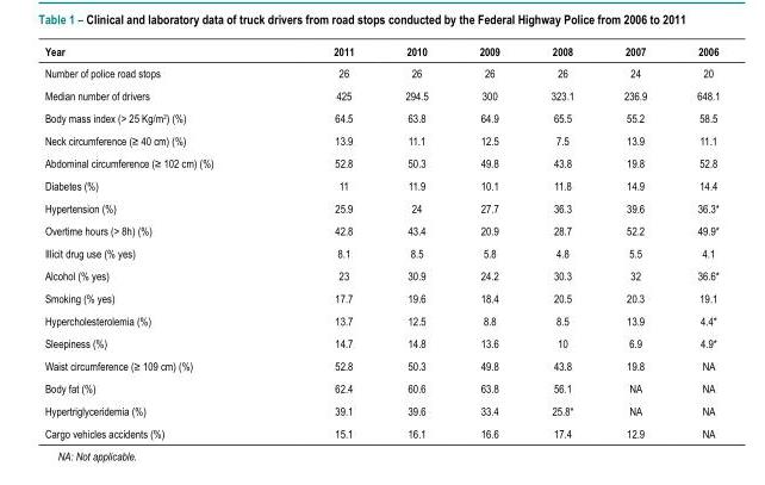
<table><thead><tr><td>Year</td><td>2011</td><td>2010</td><td>2009</td><td>2008</td><td>2007</td><td>2006</td></tr></thead><tbody><tr><td>Number of police road stops</td><td>26</td><td>26</td><td>26</td><td>26</td><td>24</td><td>20</td></tr><tr><td>Median number of drivers</td><td>425</td><td>294.5</td><td>300</td><td>323.1</td><td>236.9</td><td>648.1</td></tr><tr><td>Body mass index (&gt; 25 Kg/m<sup>2</sup>) (%)</td><td>64.5</td><td>63.8</td><td>64.9</td><td>65.5</td><td>55.2</td><td>58.5</td></tr><tr><td>Neck circumference (≥ 40 cm) (%)</td><td>13.9</td><td>11.1</td><td>12.5</td><td>7.5</td><td>13.9</td><td>11.1</td></tr><tr><td>Abdominal circumference (≥ 102 cm) (%)</td><td>52.8</td><td>50.3</td><td>49.8</td><td>43.8</td><td>19.8</td><td>52.8</td></tr><tr><td>Diabetes (%)</td><td>11</td><td>11.9</td><td>10.1</td><td>11.8</td><td>14.9</td><td>14.4</td></tr><tr><td>Hypertension (%)</td><td>25.9</td><td>24</td><td>27.7</td><td>36.3</td><td>39.6</td><td>36.3*</td></tr><tr><td>Overtime hours (&gt; 8h) (%)</td><td>42.8</td><td>43.4</td><td>20.9</td><td>28.7</td><td>52.2</td><td>49.9*</td></tr><tr><td>Illicit drug use (% yes)</td><td>8.1</td><td>8.5</td><td>5.8</td><td>4.8</td><td>5.5</td><td>4.1</td></tr><tr><td>Alcohol (% yes)</td><td>23</td><td>30.9</td><td>24.2</td><td>30.3</td><td>32</td><td>36.6*</td></tr><tr><td>Smoking (% yes)</td><td>17.7</td><td>19.6</td><td>18.4</td><td>20.5</td><td>20.3</td><td>19.1</td></tr><tr><td>Hypercholesterolemia (%)</td><td>13.7</td><td>12.5</td><td>8.8</td><td>8.5</td><td>13.9</td><td>4.4*</td></tr><tr><td>Sleepiness (%)</td><td>14.7</td><td>14.8</td><td>13.6</td><td>10</td><td>6.9</td><td>4.9*</td></tr><tr><td>Waist circumference (≥ 109 cm) (%)</td><td>52.8</td><td>50.3</td><td>49.8</td><td>43.8</td><td>19.8</td><td>NA</td></tr><tr><td>Body fat (%)</td><td>62.4</td><td>60.6</td><td>63.8</td><td>56.1</td><td>NA</td><td>NA</td></tr><tr><td>Hypertriglyceridemia (%)</td><td>39.1</td><td>39.6</td><td>33.4</td><td>25.8*</td><td>NA</td><td>NA</td></tr><tr><td>Cargo vehicles accidents (%)</td><td>15.1</td><td>16.1</td><td>16.6</td><td>17.4</td><td>12.9</td><td>NA</td></tr></tbody></table>